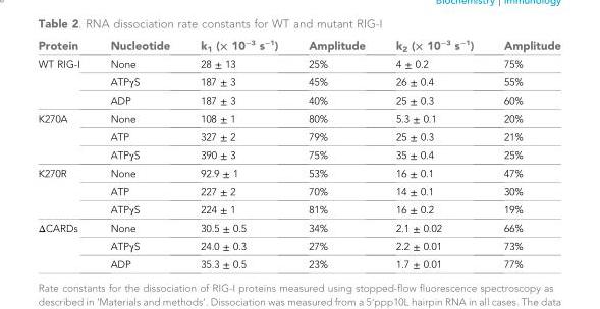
<table><thead><tr><td>Protein</td><td>Nucleotide</td><td>k<sub>1</sub> (× 10<sup>−3</sup> s<sup>−1</sup>)</td><td>Amplitude</td><td>k<sub>2</sub> (× 10<sup>−3</sup> s<sup>−1</sup>)</td><td>Amplitude</td></tr></thead><tbody><tr><td rowspan="3">WT RIG-I</td><td>None</td><td>28 ± 13</td><td>25%</td><td>4 ± 0.2</td><td>75%</td></tr><tr><td>ATPγS</td><td>187 ± 3</td><td>45%</td><td>26 ± 0.4</td><td>55%</td></tr><tr><td>ADP</td><td>187 ± 3</td><td>40%</td><td>25 ± 0.3</td><td>60%</td></tr><tr><td rowspan="3">K270A</td><td>None</td><td>108 ± 1</td><td>80%</td><td>5.3 ± 0.1</td><td>20%</td></tr><tr><td>ATP</td><td>327 ± 2</td><td>79%</td><td>25 ± 0.3</td><td>21%</td></tr><tr><td>ATPγS</td><td>390 ± 3</td><td>75%</td><td>35 ± 0.4</td><td>25%</td></tr><tr><td rowspan="3">K270R</td><td>None</td><td>92.9 ± 1</td><td>53%</td><td>16 ± 0.1</td><td>47%</td></tr><tr><td>ATP</td><td>227 ± 2</td><td>70%</td><td>14 ± 0.1</td><td>30%</td></tr><tr><td>ATPγS</td><td>224 ± 1</td><td>81%</td><td>16 ± 0.2</td><td>19%</td></tr><tr><td rowspan="3">ΔCARDs</td><td>None</td><td>30.5 ± 0.5</td><td>34%</td><td>2.1 ± 0.02</td><td>66%</td></tr><tr><td>ATPγS</td><td>24.0 ± 0.3</td><td>27%</td><td>2.2 ± 0.01</td><td>73%</td></tr><tr><td>ADP</td><td>35.3 ± 0.5</td><td>23%</td><td>1.7 ± 0.01</td><td>77%</td></tr></tbody></table>